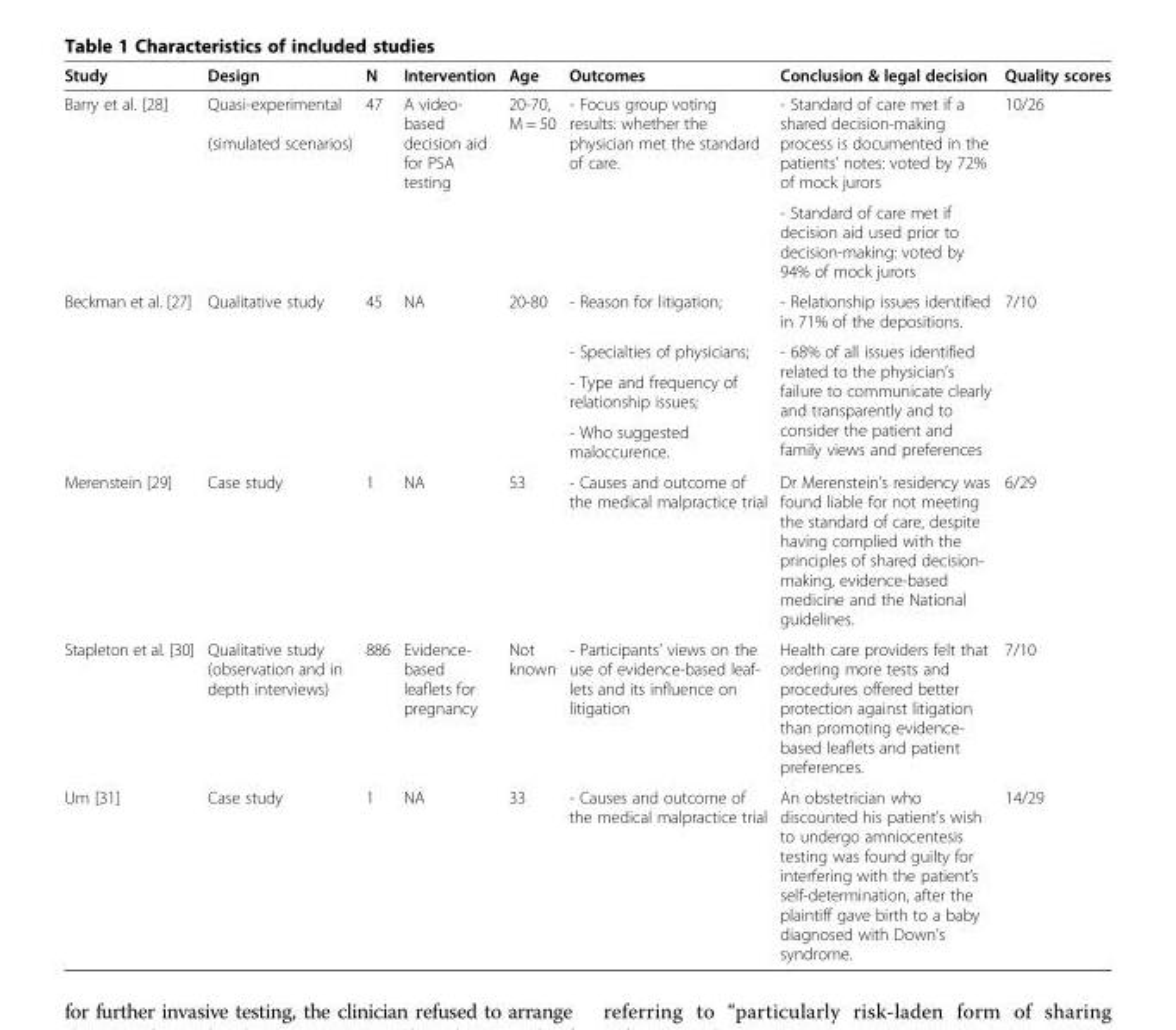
<table><thead><tr><td>Study</td><td>Design</td><td>N</td><td>Intervention</td><td>Age</td><td>Outcomes</td><td>Conclusion &amp; legal decision</td><td>Quality scores</td></tr></thead><tbody><tr><td rowspan="2">Barry et al. [28]</td><td rowspan="2">Quasi-experimental (simulated scenarios)</td><td rowspan="2">47</td><td rowspan="2">A video- based decision aid for PSA testing</td><td rowspan="2">20-70, M = 50</td><td rowspan="2">- Focus group voting results: whether the physician met the standard of care.</td><td>- Standard of care met if a shared decision-making process is documented in the patients’ notes: voted by 72% of mock jurors</td><td rowspan="2">10/26</td></tr><tr><td>- Standard of care met if decision aid used prior to decision-making: voted by 94% of mock jurors</td></tr><tr><td rowspan="4">Beckman et al. [27]</td><td rowspan="4">Qualitative study</td><td rowspan="4">45</td><td rowspan="4">NA</td><td rowspan="4">20-80</td><td>- Reason for litigation;</td><td>- Relationship issues identified in 71% of the depositions.</td><td rowspan="4">7/10</td></tr><tr><td>- Specialties of physicians;</td><td rowspan="3">- 68% of all issues identified related to the physician’s failure to communicate clearly and transparently and to consider the patient and family views and preferences</td></tr><tr><td>- Type and frequency of relationship issues;</td></tr><tr><td>- Who suggested maloccurence.</td></tr><tr><td>Merenstein [29]</td><td>Case study</td><td>1</td><td>NA</td><td>53</td><td>- Causes and outcome of the medical malpractice trial</td><td>Dr Merenstein’s residency was found liable for not meeting the standard of care, despite having complied with the principles of shared decision- making, evidence-based medicine and the National guidelines.</td><td>6/29</td></tr><tr><td>Stapleton et al. [30]</td><td>Qualitative study (observation and in depth interviews)</td><td>886</td><td>Evidence- based leaflets for pregnancy</td><td>Not known</td><td>- Participants’ views on the use of evidence-based leaf- lets and its influence on litigation</td><td>Health care providers felt that ordering more tests and procedures offered better protection against litigation than promoting evidence- based leaflets and patient preferences.</td><td>7/10</td></tr><tr><td>Um [31]</td><td>Case study</td><td>1</td><td>NA</td><td>33</td><td>- Causes and outcome of the medical malpractice trial</td><td>An obstetrician who discounted his patient’s wish to undergo amniocentesis testing was found guilty for interfering with the patient’s self-determination, after the plaintiff gave birth to a baby diagnosed with Down’s syndrome.</td><td>14/29</td></tr></tbody></table>